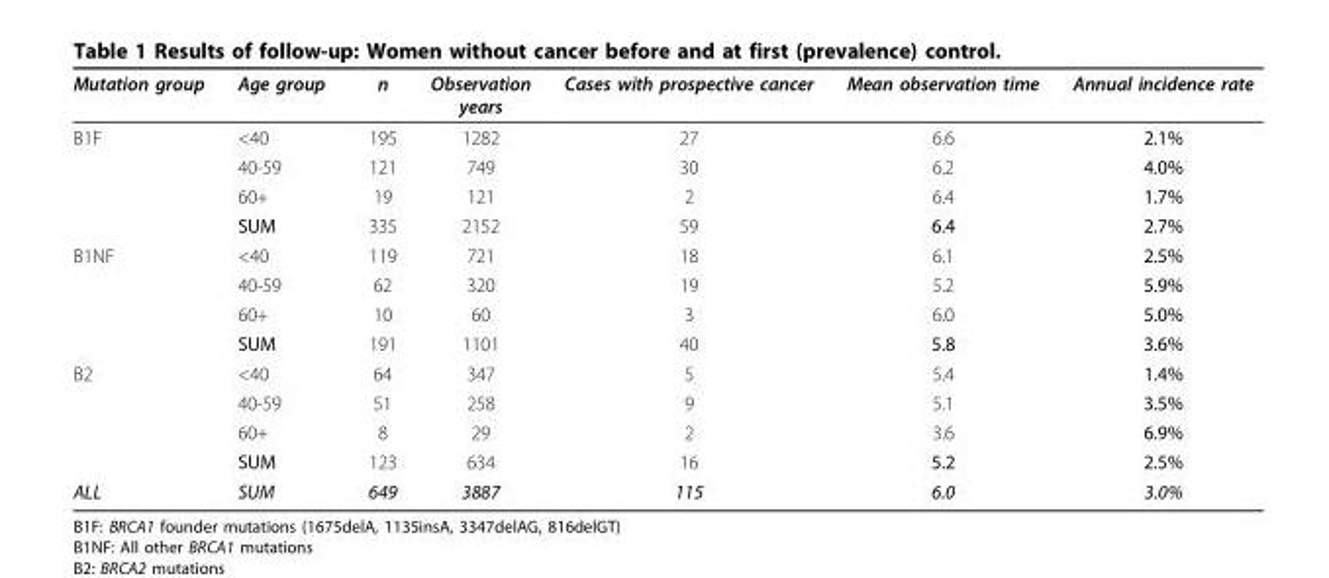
<table><thead><tr><td>Mutation group</td><td>Age group</td><td>n</td><td>Observation years</td><td>Cases with prospective cancer</td><td>Mean observation time</td><td>Annual incidence rate</td></tr></thead><tbody><tr><td rowspan="4">B1F</td><td>&lt;40</td><td>195</td><td>1282</td><td>27</td><td>6.6</td><td>2.1%</td></tr><tr><td>40-59</td><td>121</td><td>749</td><td>30</td><td>6.2</td><td>4.0%</td></tr><tr><td>60+</td><td>19</td><td>121</td><td>2</td><td>6.4</td><td>1.7%</td></tr><tr><td>SUM</td><td>335</td><td>2152</td><td>59</td><td>6.4</td><td>2.7%</td></tr><tr><td rowspan="4">B1NF</td><td>&lt;40</td><td>119</td><td>721</td><td>18</td><td>6.1</td><td>2.5%</td></tr><tr><td>40-59</td><td>62</td><td>320</td><td>19</td><td>5.2</td><td>5.9%</td></tr><tr><td>60+</td><td>10</td><td>60</td><td>3</td><td>6.0</td><td>5.0%</td></tr><tr><td>SUM</td><td>191</td><td>1101</td><td>40</td><td>5.8</td><td>3.6%</td></tr><tr><td rowspan="4">B2</td><td>&lt;40</td><td>64</td><td>347</td><td>5</td><td>5.4</td><td>1.4%</td></tr><tr><td>40-59</td><td>51</td><td>258</td><td>9</td><td>5.1</td><td>3.5%</td></tr><tr><td>60+</td><td>8</td><td>29</td><td>2</td><td>3.6</td><td>6.9%</td></tr><tr><td>SUM</td><td>123</td><td>634</td><td>16</td><td>5.2</td><td>2.5%</td></tr><tr><td>ALL</td><td>SUM</td><td>649</td><td>3887</td><td>115</td><td>6.0</td><td>3.0%</td></tr></tbody></table>